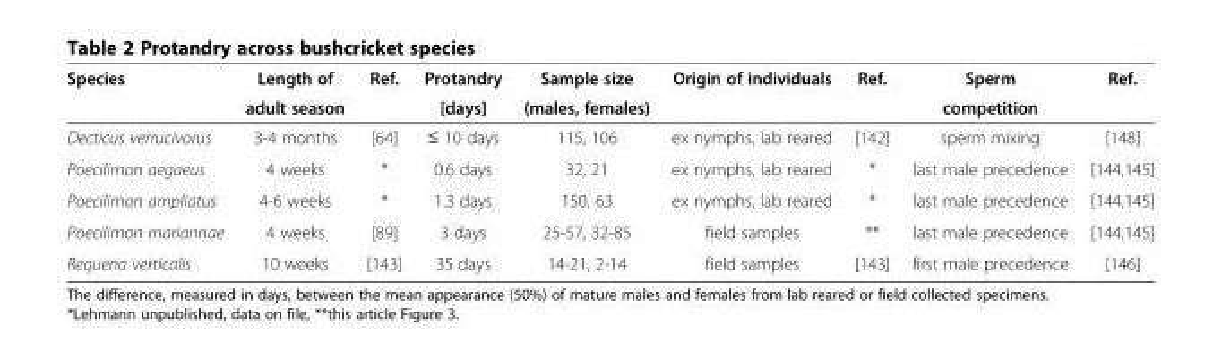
<table><thead><tr><td rowspan="2">Species</td><td rowspan="2">Length of adult season</td><td rowspan="2">Ref.</td><td rowspan="2">Protandry [days]</td><td rowspan="2">Sample size (males, females)</td><td rowspan="2">Origin of individuals</td><td rowspan="2">Ref.</td><td rowspan="2">Sperm competition</td><td rowspan="2">Ref.</td></tr><tr></tr></thead><tbody><tr><td>Decticus verrucivorus</td><td>3-4 months</td><td>[64]</td><td>≤ 10 days</td><td>115, 106</td><td>ex nymphs, lab reared</td><td>[142]</td><td>sperm mixing</td><td>[148]</td></tr><tr><td>Poecilimon aegaeus</td><td>4 weeks</td><td>*</td><td>0.6 days</td><td>32, 21</td><td>ex nymphs, lab reared</td><td>*</td><td>last male precedence</td><td>[144,145]</td></tr><tr><td>Poecilimon ampliatus</td><td>4-6 weeks</td><td>*</td><td>1.3 days</td><td>150, 63</td><td>ex nymphs, lab reared</td><td>*</td><td>last male precedence</td><td>[144,145]</td></tr><tr><td>Poecilimon mariannae</td><td>4 weeks</td><td>[89]</td><td>3 days</td><td>25-57, 32-85</td><td>field samples</td><td>**</td><td>last male precedence</td><td>[144,145]</td></tr><tr><td>Requena verticalis</td><td>10 weeks</td><td>[143]</td><td>35 days</td><td>14-21, 2-14</td><td>field samples</td><td>[143]</td><td>first male precedence</td><td>[146]</td></tr></tbody></table>